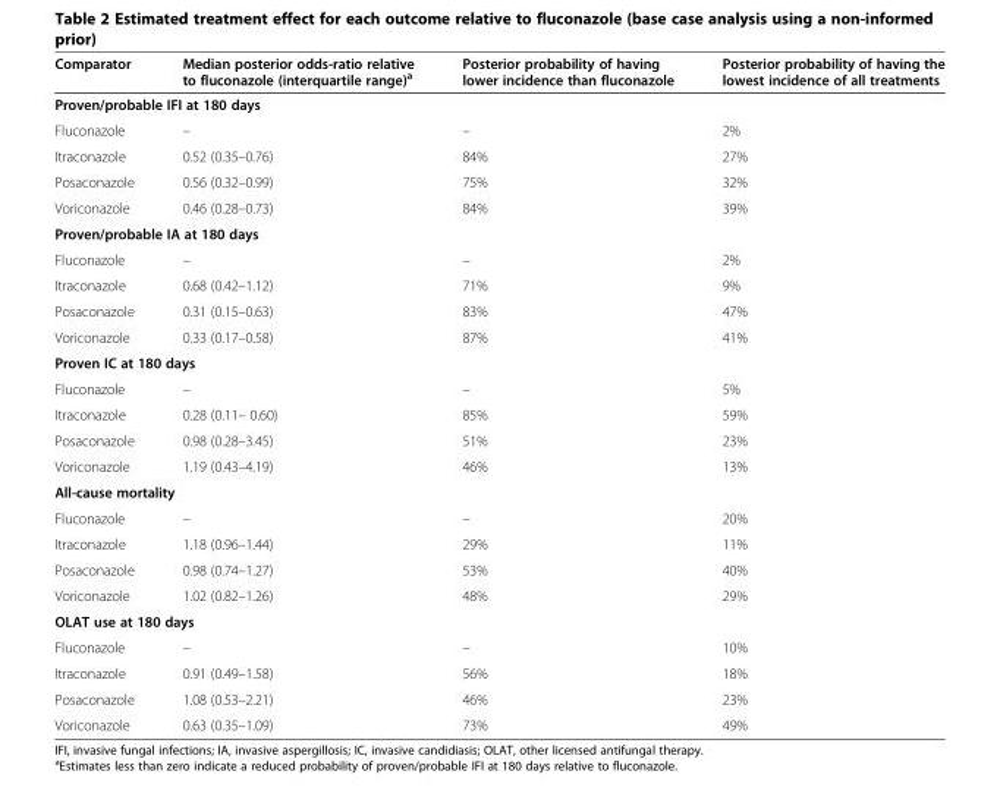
<table><thead><tr><td>Comparator</td><td>Median posterior odds-ratio relative to fluconazole (interquartile range)<sup>a</sup></td><td>Posterior probability of having lower incidence than fluconazole</td><td>Posterior probability of having the lowest incidence of all treatments</td></tr></thead><tbody><tr><td colspan="4">Proven/probable IFI at 180 days</td></tr><tr><td>Fluconazole</td><td>–</td><td>–</td><td>2%</td></tr><tr><td>Itraconazole</td><td>0.52 (0.35–0.76)</td><td>84%</td><td>27%</td></tr><tr><td>Posaconazole</td><td>0.56 (0.32–0.99)</td><td>75%</td><td>32%</td></tr><tr><td>Voriconazole</td><td>0.46 (0.28–0.73)</td><td>84%</td><td>39%</td></tr><tr><td colspan="4">Proven/probable IA at 180 days</td></tr><tr><td>Fluconazole</td><td>–</td><td>–</td><td>2%</td></tr><tr><td>Itraconazole</td><td>0.68 (0.42–1.12)</td><td>71%</td><td>9%</td></tr><tr><td>Posaconazole</td><td>0.31 (0.15–0.63)</td><td>83%</td><td>47%</td></tr><tr><td>Voriconazole</td><td>0.33 (0.17–0.58)</td><td>87%</td><td>41%</td></tr><tr><td colspan="4">Proven IC at 180 days</td></tr><tr><td>Fluconazole</td><td>–</td><td>–</td><td>5%</td></tr><tr><td>Itraconazole</td><td>0.28 (0.11– 0.60)</td><td>85%</td><td>59%</td></tr><tr><td>Posaconazole</td><td>0.98 (0.28–3.45)</td><td>51%</td><td>23%</td></tr><tr><td>Voriconazole</td><td>1.19 (0.43–4.19)</td><td>46%</td><td>13%</td></tr><tr><td colspan="4">All-cause mortality</td></tr><tr><td>Fluconazole</td><td>–</td><td>–</td><td>20%</td></tr><tr><td>Itraconazole</td><td>1.18 (0.96–1.44)</td><td>29%</td><td>11%</td></tr><tr><td>Posaconazole</td><td>0.98 (0.74–1.27)</td><td>53%</td><td>40%</td></tr><tr><td>Voriconazole</td><td>1.02 (0.82–1.26)</td><td>48%</td><td>29%</td></tr><tr><td colspan="4">OLAT use at 180 days</td></tr><tr><td>Fluconazole</td><td>–</td><td>–</td><td>10%</td></tr><tr><td>Itraconazole</td><td>0.91 (0.49–1.58)</td><td>56%</td><td>18%</td></tr><tr><td>Posaconazole</td><td>1.08 (0.53–2.21)</td><td>46%</td><td>23%</td></tr><tr><td>Voriconazole</td><td>0.63 (0.35–1.09)</td><td>73%</td><td>49%</td></tr></tbody></table>